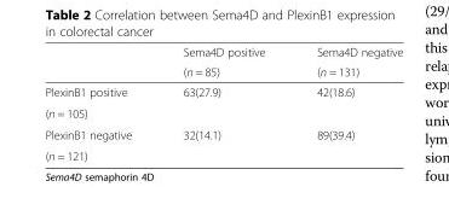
<table><thead><tr><td rowspan="2"></td><td rowspan="2">Sema4D positive (n = 85)</td><td rowspan="2">Sema4D negative (n = 131)</td></tr><tr></tr></thead><tbody><tr><td>PlexinB1 positive</td><td rowspan="2">63(27.9)</td><td rowspan="2">42(18.6)</td></tr><tr><td>(n = 105)</td></tr><tr><td>PlexinB1 negative</td><td rowspan="2">32(14.1)</td><td rowspan="2">89(39.4)</td></tr><tr><td>(n = 121)</td></tr></tbody></table>